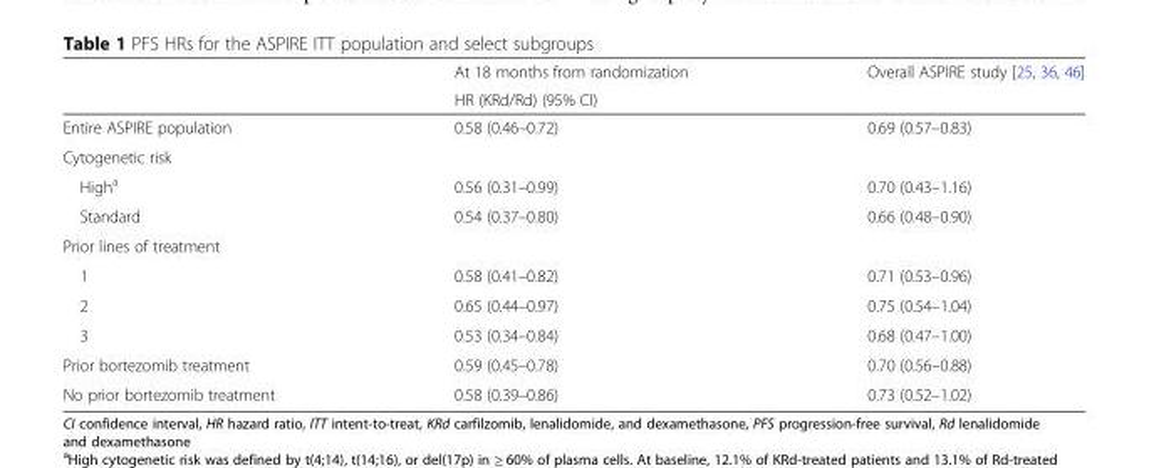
<table><thead><tr><td rowspan="2"></td><td>At 18 months from randomization</td><td>Overall ASPIRE study [25, 36, 46]</td></tr><tr><td colspan="2">HR (KRd/Rd) (95% CI)</td></tr></thead><tbody><tr><td>Entire ASPIRE population</td><td>0.58 (0.46–0.72)</td><td>0.69 (0.57–0.83)</td></tr><tr><td colspan="3">Cytogenetic risk</td></tr><tr><td>High<sup>a</sup></td><td>0.56 (0.31–0.99)</td><td>0.70 (0.43–1.16)</td></tr><tr><td>Standard</td><td>0.54 (0.37–0.80)</td><td>0.66 (0.48–0.90)</td></tr><tr><td colspan="3">Prior lines of treatment</td></tr><tr><td>1</td><td>0.58 (0.41–0.82)</td><td>0.71 (0.53–0.96)</td></tr><tr><td>2</td><td>0.65 (0.44–0.97)</td><td>0.75 (0.54–1.04)</td></tr><tr><td>3</td><td>0.53 (0.34–0.84)</td><td>0.68 (0.47–1.00)</td></tr><tr><td>Prior bortezomib treatment</td><td>0.59 (0.45–0.78)</td><td>0.70 (0.56–0.88)</td></tr><tr><td>No prior bortezomib treatment</td><td>0.58 (0.39–0.86)</td><td>0.73 (0.52–1.02)</td></tr></tbody></table>